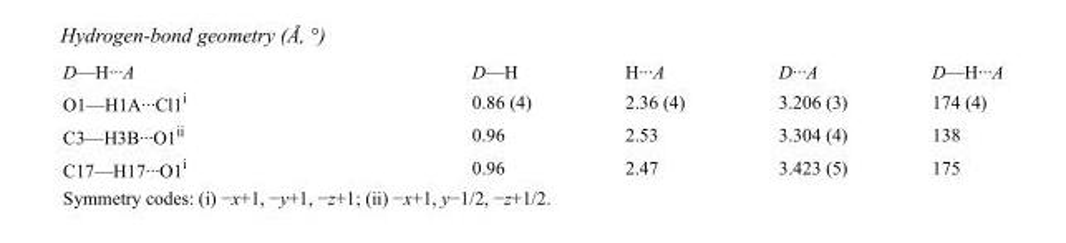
<table><tbody><tr><td>D—H···A</td><td>D—H</td><td>H···A</td><td>D···A</td><td>D—H···A</td></tr><tr><td>O1—H1A···Cl1<sup>i</sup></td><td>0.86 (4)</td><td>2.36 (4)</td><td>3.206 (3)</td><td>174 (4)</td></tr><tr><td>C3—H3B···O1<sup>ii</sup></td><td>0.96</td><td>2.53</td><td>3.304 (4)</td><td>138</td></tr><tr><td>C17—H17···O1<sup>i</sup></td><td>0.96</td><td>2.47</td><td>3.423 (5)</td><td>175</td></tr></tbody></table>